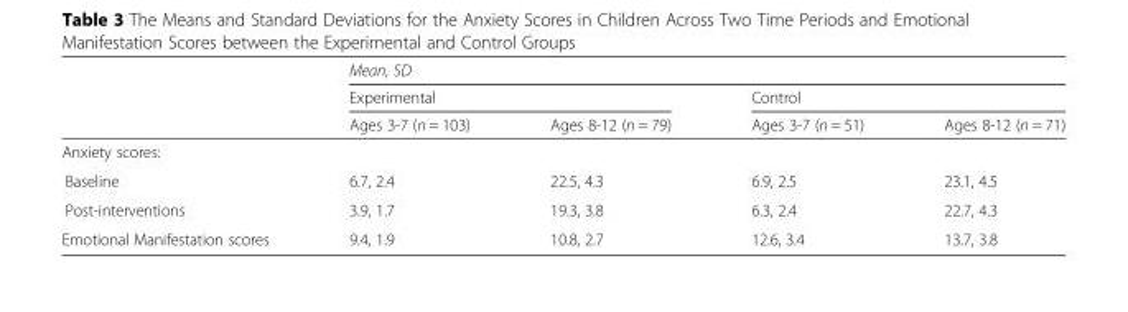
<table><thead><tr><td rowspan="3"></td><td colspan="4">Mean, SD</td></tr><tr><td colspan="2">Experimental</td><td colspan="2">Control</td></tr><tr><td>Ages 3-7 (n = 103)</td><td>Ages 8-12 (n = 79)</td><td>Ages 3-7 (n = 51)</td><td>Ages 8-12 (n = 71)</td></tr></thead><tbody><tr><td colspan="5">Anxiety scores:</td></tr><tr><td>Baseline</td><td>6.7, 2.4</td><td>22.5, 4.3</td><td>6.9, 2.5</td><td>23.1, 4.5</td></tr><tr><td>Post-interventions</td><td>3.9, 1.7</td><td>19.3, 3.8</td><td>6.3, 2.4</td><td>22.7, 4.3</td></tr><tr><td>Emotional Manifestation scores</td><td>9.4, 1.9</td><td>10.8, 2.7</td><td>12.6, 3.4</td><td>13.7, 3.8</td></tr></tbody></table>